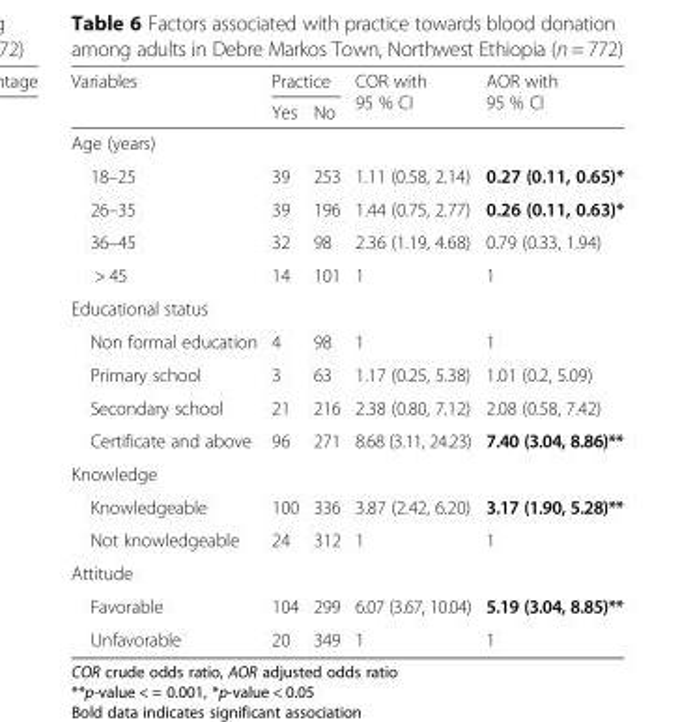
<table><thead><tr><td rowspan="2">Variables</td><td colspan="2">Practice</td><td rowspan="2">COR with 95 % CI</td><td rowspan="2">AOR with 95 % CI</td></tr><tr><td>Yes</td><td>No</td></tr></thead><tbody><tr><td colspan="5">Age (years)</td></tr><tr><td>18–25</td><td>39</td><td>253</td><td>1.11 (0.58, 2.14)</td><td>0.27 (0.11, 0.65)*</td></tr><tr><td>26–35</td><td>39</td><td>196</td><td>1.44 (0.75, 2.77)</td><td>0.26 (0.11, 0.63)*</td></tr><tr><td>36–45</td><td>32</td><td>98</td><td>2.36 (1.19, 4.68)</td><td>0.79 (0.33, 1.94)</td></tr><tr><td>&gt; 45</td><td>14</td><td>101</td><td>1</td><td>1</td></tr><tr><td colspan="5">Educational status</td></tr><tr><td>Non formal education</td><td>4</td><td>98</td><td>1</td><td>1</td></tr><tr><td>Primary school</td><td>3</td><td>63</td><td>1.17 (0.25, 5.38)</td><td>1.01 (0.2, 5.09)</td></tr><tr><td>Secondary school</td><td>21</td><td>216</td><td>2.38 (0.80, 7.12)</td><td>2.08 (0.58, 7.42)</td></tr><tr><td>Certificate and above</td><td>96</td><td>271</td><td>8.68 (3.11, 24.23)</td><td>7.40 (3.04, 8.86)**</td></tr><tr><td colspan="5">Knowledge</td></tr><tr><td>Knowledgeable</td><td>100</td><td>336</td><td>3.87 (2.42, 6.20)</td><td>3.17 (1.90, 5.28)**</td></tr><tr><td>Not knowledgeable</td><td>24</td><td>312</td><td>1</td><td>1</td></tr><tr><td colspan="5">Attitude</td></tr><tr><td>Favorable</td><td>104</td><td>299</td><td>6.07 (3.67, 10.04)</td><td>5.19 (3.04, 8.85)**</td></tr><tr><td>Unfavorable</td><td>20</td><td>349</td><td>1</td><td>1</td></tr></tbody></table>